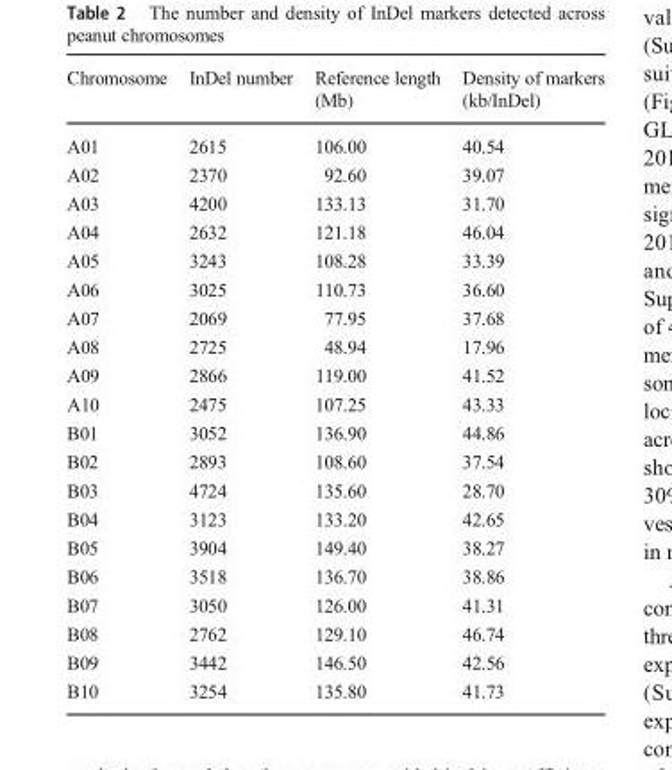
<table><thead><tr><td>Chromosome</td><td>InDel number</td><td>Reference length (Mb)</td><td>Density of markers (kb/InDel)</td></tr></thead><tbody><tr><td>A01</td><td>2615</td><td>106.00</td><td>40.54</td></tr><tr><td>A02</td><td>2370</td><td>92.60</td><td>39.07</td></tr><tr><td>A03</td><td>4200</td><td>133.13</td><td>31.70</td></tr><tr><td>A04</td><td>2632</td><td>121.18</td><td>46.04</td></tr><tr><td>A05</td><td>3243</td><td>108.28</td><td>33.39</td></tr><tr><td>A06</td><td>3025</td><td>110.73</td><td>36.60</td></tr><tr><td>A07</td><td>2069</td><td>77.95</td><td>37.68</td></tr><tr><td>A08</td><td>2725</td><td>48.94</td><td>17.96</td></tr><tr><td>A09</td><td>2866</td><td>119.00</td><td>41.52</td></tr><tr><td>A10</td><td>2475</td><td>107.25</td><td>43.33</td></tr><tr><td>B01</td><td>3052</td><td>136.90</td><td>44.86</td></tr><tr><td>B02</td><td>2893</td><td>108.60</td><td>37.54</td></tr><tr><td>B03</td><td>4724</td><td>135.60</td><td>28.70</td></tr><tr><td>B04</td><td>3123</td><td>133.20</td><td>42.65</td></tr><tr><td>B05</td><td>3904</td><td>149.40</td><td>38.27</td></tr><tr><td>B06</td><td>3518</td><td>136.70</td><td>38.86</td></tr><tr><td>B07</td><td>3050</td><td>126.00</td><td>41.31</td></tr><tr><td>B08</td><td>2762</td><td>129.10</td><td>46.74</td></tr><tr><td>B09</td><td>3442</td><td>146.50</td><td>42.56</td></tr><tr><td>B10</td><td>3254</td><td>135.80</td><td>41.73</td></tr></tbody></table>